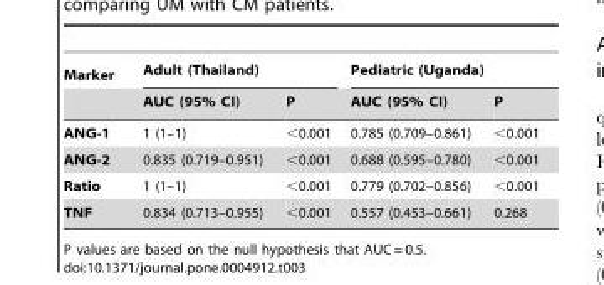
<table><thead><tr><td rowspan="2">Marker</td><td colspan="2">Adult (Thailand)</td><td colspan="2">Pediatric (Uganda)</td></tr><tr><td>AUC (95% CI)</td><td>P</td><td>AUC (95% CI)</td><td>P</td></tr></thead><tbody><tr><td>ANG-1</td><td>1 (1–1)</td><td>&lt;0.001</td><td>0.785 (0.709–0.861)</td><td>&lt;0.001</td></tr><tr><td>ANG-2</td><td>0.835 (0.719–0.951)</td><td>&lt;0.001</td><td>0.688 (0.595–0.780)</td><td>&lt;0.001</td></tr><tr><td>Ratio</td><td>1 (1–1)</td><td>&lt;0.001</td><td>0.779 (0.702–0.856)</td><td>&lt;0.001</td></tr><tr><td>TNF</td><td>0.834 (0.713–0.955)</td><td>&lt;0.001</td><td>0.557 (0.453–0.661)</td><td>0.268</td></tr></tbody></table>